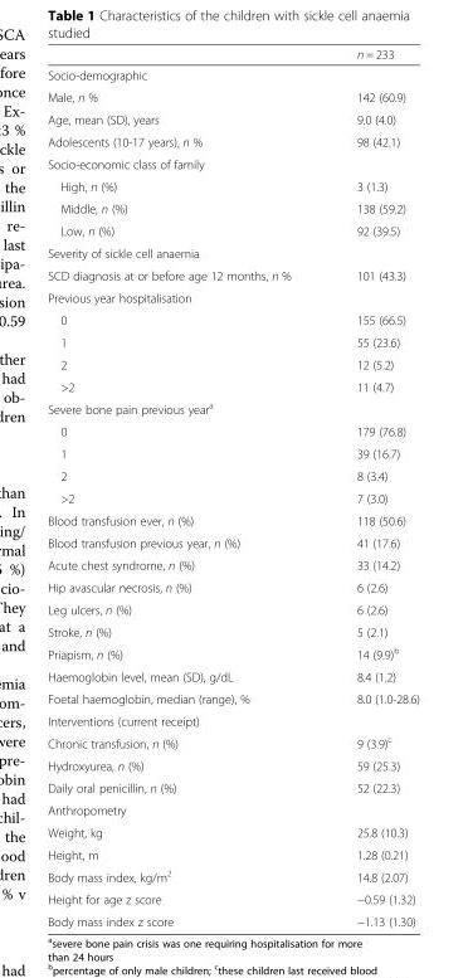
<table><thead><tr><td></td><td>n = 233</td></tr></thead><tbody><tr><td colspan="2">Socio-demographic</td></tr><tr><td>Male, n %</td><td>142 (60.9)</td></tr><tr><td>Age, mean (SD), years</td><td>9.0 (4.0)</td></tr><tr><td>Adolescents (10-17 years), n %</td><td>98 (42.1)</td></tr><tr><td colspan="2">Socio-economic class of family</td></tr><tr><td>High, n (%)</td><td>3 (1.3)</td></tr><tr><td>Middle, n (%)</td><td>138 (59.2)</td></tr><tr><td>Low, n (%)</td><td>92 (39.5)</td></tr><tr><td colspan="2">Severity of sickle cell anaemia</td></tr><tr><td>SCD diagnosis at or before age 12 months, n %</td><td>101 (43.3)</td></tr><tr><td colspan="2">Previous year hospitalisation</td></tr><tr><td>0</td><td>155 (66.5)</td></tr><tr><td>1</td><td>55 (23.6)</td></tr><tr><td>2</td><td>12 (5.2)</td></tr><tr><td>&gt;2</td><td>11 (4.7)</td></tr><tr><td colspan="2">Severe bone pain previous year<sup>a</sup></td></tr><tr><td>0</td><td>179 (76.8)</td></tr><tr><td>1</td><td>39 (16.7)</td></tr><tr><td>2</td><td>8 (3.4)</td></tr><tr><td>&gt;2</td><td>7 (3.0)</td></tr><tr><td>Blood transfusion ever, n (%)</td><td>118 (50.6)</td></tr><tr><td>Blood transfusion previous year, n (%)</td><td>41 (17.6)</td></tr><tr><td>Acute chest syndrome, n (%)</td><td>33 (14.2)</td></tr><tr><td>Hip avascular necrosis, n (%)</td><td>6 (2.6)</td></tr><tr><td>Leg ulcers, n (%)</td><td>6 (2.6)</td></tr><tr><td>Stroke, n (%)</td><td>5 (2.1)</td></tr><tr><td>Priapism, n (%)</td><td>14 (9.9)<sup>b</sup></td></tr><tr><td>Haemoglobin level, mean (SD), g/dL</td><td>8.4 (1.2)</td></tr><tr><td>Foetal haemoglobin, median (range), %</td><td>8.0 (1.0-28.6)</td></tr><tr><td colspan="2">Interventions (current receipt)</td></tr><tr><td>Chronic transfusion, n (%)</td><td>9 (3.9)<sup>c</sup></td></tr><tr><td>Hydroxyurea, n (%)</td><td>59 (25.3)</td></tr><tr><td>Daily oral penicillin, n (%)</td><td>52 (22.3)</td></tr><tr><td colspan="2">Anthropometry</td></tr><tr><td>Weight, kg</td><td>25.8 (10.3)</td></tr><tr><td>Height, m</td><td>1.28 (0.21)</td></tr><tr><td>Body mass index, kg/m<sup>2</sup></td><td>14.8 (2.07)</td></tr><tr><td>Height for age z score</td><td>−0.59 (1.32)</td></tr><tr><td>Body mass index z score</td><td>−1.13 (1.30)</td></tr></tbody></table>